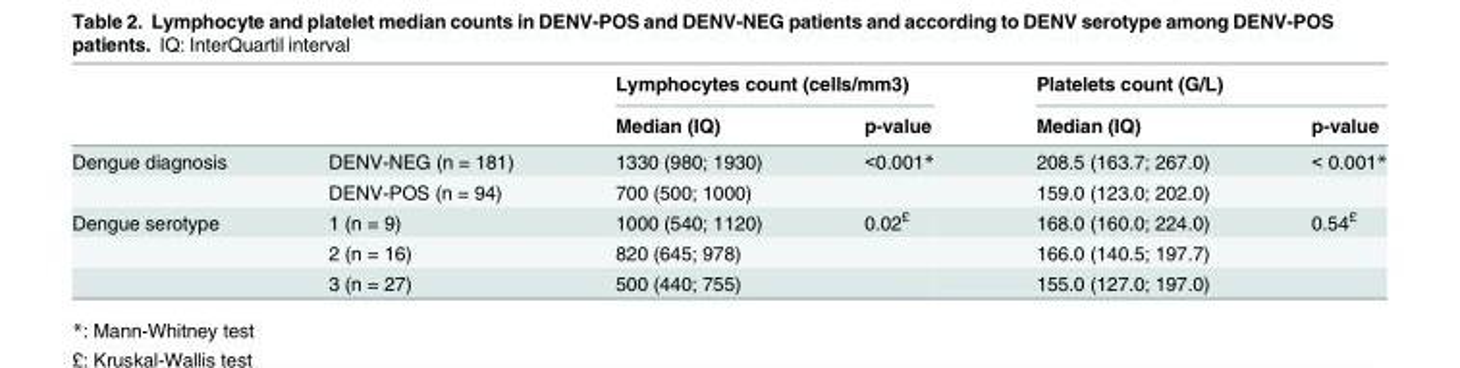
<table><thead><tr><td rowspan="2"></td><td rowspan="2"></td><td colspan="2">Lymphocytes count (cells/mm3)</td><td colspan="2">Platelets count (G/L)</td></tr><tr><td>Median (IQ)</td><td>p-value</td><td>Median (IQ)</td><td>p-value</td></tr></thead><tbody><tr><td rowspan="2">Dengue diagnosis</td><td>DENV-NEG (n = 181)</td><td>1330 (980; 1930)</td><td>&lt;0.001*</td><td>208.5 (163.7; 267.0)</td><td>&lt; 0.001*</td></tr><tr><td>DENV-POS (n = 94)</td><td>700 (500; 1000)</td><td></td><td>159.0 (123.0; 202.0)</td><td></td></tr><tr><td rowspan="3">Dengue serotype</td><td>1 (n = 9)</td><td>1000 (540; 1120)</td><td>0.02<sup>£</sup></td><td>168.0 (160.0; 224.0)</td><td>0.54<sup>£</sup></td></tr><tr><td>2 (n = 16)</td><td>820 (645; 978)</td><td></td><td>166.0 (140.5; 197.7)</td><td></td></tr><tr><td>3 (n = 27)</td><td>500 (440; 755)</td><td></td><td>155.0 (127.0; 197.0)</td><td></td></tr></tbody></table>